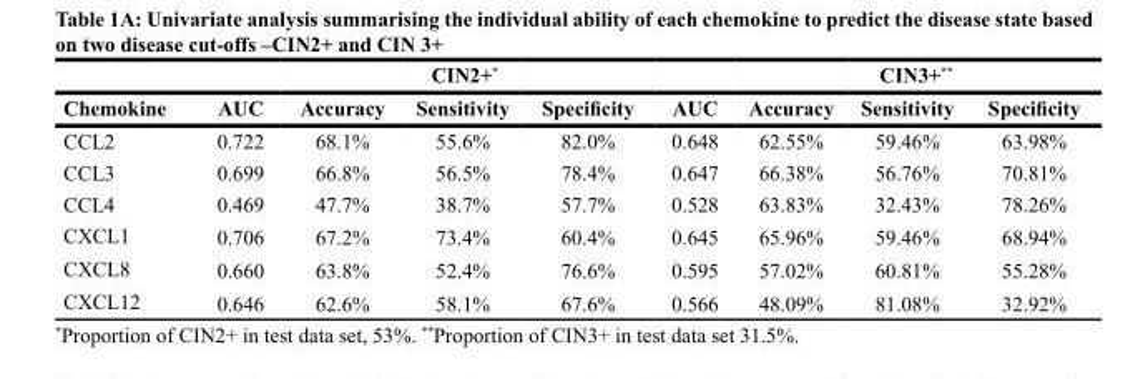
<table><thead><tr><td rowspan="2">Chemokine</td><td colspan="4">CIN2+*</td><td colspan="4">CIN3+**</td></tr><tr><td>AUC</td><td>Accuracy</td><td>Sensitivity</td><td>Specificity</td><td>AUC</td><td>Accuracy</td><td>Sensitivity</td><td>Specificity</td></tr></thead><tbody><tr><td>CCL2</td><td>0.722</td><td>68.1%</td><td>55.6%</td><td>82.0%</td><td>0.648</td><td>62.55%</td><td>59.46%</td><td>63.98%</td></tr><tr><td>CCL3</td><td>0.699</td><td>66.8%</td><td>56.5%</td><td>78.4%</td><td>0.647</td><td>66.38%</td><td>56.76%</td><td>70.81%</td></tr><tr><td>CCL4</td><td>0.469</td><td>47.7%</td><td>38.7%</td><td>57.7%</td><td>0.528</td><td>63.83%</td><td>32.43%</td><td>78.26%</td></tr><tr><td>CXCL1</td><td>0.706</td><td>67.2%</td><td>73.4%</td><td>60.4%</td><td>0.645</td><td>65.96%</td><td>59.46%</td><td>68.94%</td></tr><tr><td>CXCL8</td><td>0.660</td><td>63.8%</td><td>52.4%</td><td>76.6%</td><td>0.595</td><td>57.02%</td><td>60.81%</td><td>55.28%</td></tr><tr><td>CXCL12</td><td>0.646</td><td>62.6%</td><td>58.1%</td><td>67.6%</td><td>0.566</td><td>48.09%</td><td>81.08%</td><td>32.92%</td></tr></tbody></table>